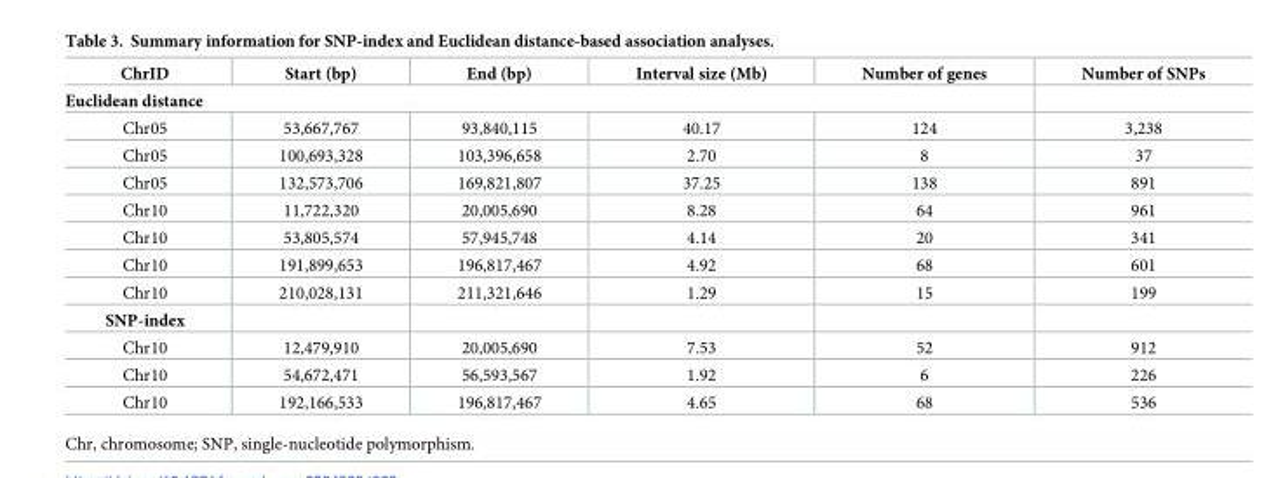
<table><thead><tr><td>ChrID</td><td>Start (bp)</td><td>End (bp)</td><td>Interval size (Mb)</td><td>Number of genes</td><td>Number of SNPs</td></tr></thead><tbody><tr><td colspan="6">Euclidean distance</td></tr><tr><td>Chr05</td><td>53,667,767</td><td>93,840,115</td><td>40.17</td><td>124</td><td>3,238</td></tr><tr><td>Chr05</td><td>100,693,328</td><td>103,396,658</td><td>2.70</td><td>8</td><td>37</td></tr><tr><td>Chr05</td><td>132,573,706</td><td>169,821,807</td><td>37.25</td><td>138</td><td>891</td></tr><tr><td>Chr10</td><td>11,722,320</td><td>20,005,690</td><td>8.28</td><td>64</td><td>961</td></tr><tr><td>Chr10</td><td>53,805,574</td><td>57,945,748</td><td>4.14</td><td>20</td><td>341</td></tr><tr><td>Chr10</td><td>191,899,653</td><td>196,817,467</td><td>4.92</td><td>68</td><td>601</td></tr><tr><td>Chr10</td><td>210,028,131</td><td>211,321,646</td><td>1.29</td><td>15</td><td>199</td></tr><tr><td colspan="6">SNP-index</td></tr><tr><td>Chr10</td><td>12,479,910</td><td>20,005,690</td><td>7.53</td><td>52</td><td>912</td></tr><tr><td>Chr10</td><td>54,672,471</td><td>56,593,567</td><td>1.92</td><td>6</td><td>226</td></tr><tr><td>Chr10</td><td>192,166,533</td><td>196,817,467</td><td>4.65</td><td>68</td><td>536</td></tr></tbody></table>